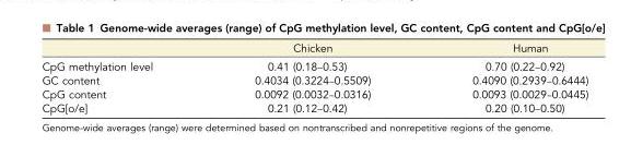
<table><thead><tr><td></td><td>Chicken</td><td>Human</td></tr></thead><tbody><tr><td>CpG methylation level</td><td>0.41 (0.18–0.53)</td><td>0.70 (0.22–0.92)</td></tr><tr><td>GC content</td><td>0.4034 (0.3224–0.5509)</td><td>0.4090 (0.2939–0.6444)</td></tr><tr><td>CpG content</td><td>0.0092 (0.0032–0.0316)</td><td>0.0093 (0.0029–0.0445)</td></tr><tr><td>CpG[o/e]</td><td>0.21 (0.12–0.42)</td><td>0.20 (0.10–0.50)</td></tr></tbody></table>